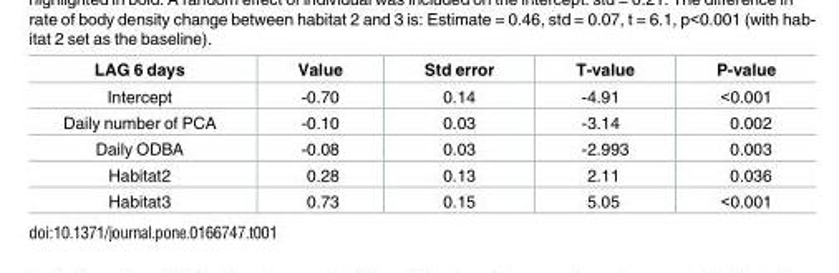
<table><thead><tr><td>LAG 6 days</td><td>Value</td><td>Std error</td><td>T-value</td><td>P-value</td></tr></thead><tbody><tr><td>Intercept</td><td>-0.70</td><td>0.14</td><td>-4.91</td><td>&lt;0.001</td></tr><tr><td>Daily number of PCA</td><td>-0.10</td><td>0.03</td><td>-3.14</td><td>0.002</td></tr><tr><td>Daily ODBA</td><td>-0.08</td><td>0.03</td><td>-2.993</td><td>0.003</td></tr><tr><td>Habitat2</td><td>0.28</td><td>0.13</td><td>2.11</td><td>0.036</td></tr><tr><td>Habitat3</td><td>0.73</td><td>0.15</td><td>5.05</td><td>&lt;0.001</td></tr></tbody></table>